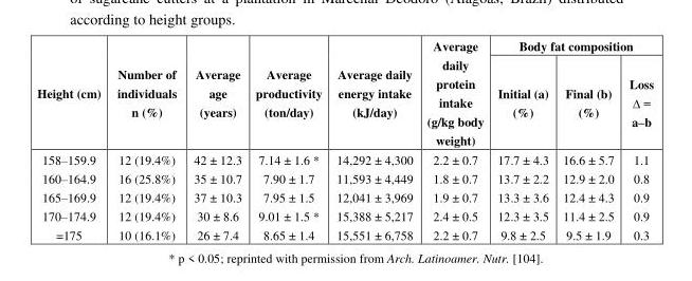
<table><thead><tr><td rowspan="2">Height (cm)</td><td rowspan="2">Number of individuals n (%)</td><td rowspan="2">Average age (years)</td><td rowspan="2">Average productivity (ton/day)</td><td rowspan="2">Average daily energy intake (kJ/day)</td><td rowspan="2">Average daily protein intake (g/kg body weight)</td><td colspan="3">Body fat composition</td></tr><tr><td>Initial (a) (%)</td><td>Final (b) (%)</td><td>Loss ∆ = a–b</td></tr></thead><tbody><tr><td>158–159.9</td><td>12 (19.4%)</td><td>42 ± 12.3</td><td>7.14 ± 1.6 *</td><td>14,292 ± 4,300</td><td>2.2 ± 0.7</td><td>17.7 ± 4.3</td><td>16.6 ± 5.7</td><td>1.1</td></tr><tr><td>160–164.9</td><td>16 (25.8%)</td><td>35 ± 10.7</td><td>7.90 ± 1.7</td><td>11,593 ± 4,449</td><td>1.8 ± 0.7</td><td>13.7 ± 2.2</td><td>12.9 ± 2.0</td><td>0.8</td></tr><tr><td>165–169.9</td><td>12 (19.4%)</td><td>37 ± 10.3</td><td>7.95 ± 1.5</td><td>12,041 ± 3,969</td><td>1.9 ± 0.7</td><td>13.3 ± 3.6</td><td>12.4 ± 4.3</td><td>0.9</td></tr><tr><td>170–174.9</td><td>12 (19.4%)</td><td>30 ± 8.6</td><td>9.01 ± 1.5 *</td><td>15,388 ± 5,217</td><td>2.4 ± 0.5</td><td>12.3 ± 3.5</td><td>11.4 ± 2.5</td><td>0.9</td></tr><tr><td>=175</td><td>10 (16.1%)</td><td>26 ± 7.4</td><td>8.65 ± 1.4</td><td>15,551 ± 6,758</td><td>2.2 ± 0.7</td><td>9.8 ± 2.5</td><td>9.5 ± 1.9</td><td>0.3</td></tr></tbody></table>